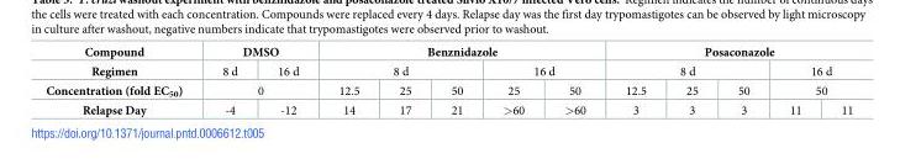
<table><thead><tr><td rowspan="4">Compound Regimen Concentration (fold EC<sub>50</sub>) Relapse Day</td><td colspan="2">DMSO</td><td colspan="5">Benznidazole</td><td colspan="5">Posaconazole</td></tr><tr><td>8 d</td><td>16 d</td><td colspan="3">8 d</td><td colspan="2">16 d</td><td colspan="3">8 d</td><td rowspan="2" colspan="2">16 d 50</td></tr><tr><td colspan="2">0</td><td rowspan="2">12.5 14</td><td rowspan="2">25 17</td><td rowspan="2">50 21</td><td rowspan="2">25 &gt;60</td><td rowspan="2">50 &gt;60</td><td rowspan="2">12.5 3</td><td rowspan="2">25 3</td><td rowspan="2">50 3</td></tr><tr><td>-4</td><td>-12</td><td>11</td><td>11</td></tr></thead><tbody></tbody></table>